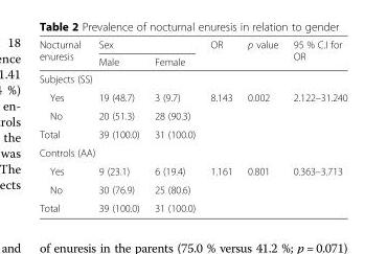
<table><thead><tr><td rowspan="2">Nocturnal enuresis</td><td colspan="2">Sex</td><td rowspan="2">OR</td><td rowspan="2">p value</td><td rowspan="2">95 % C.I for OR</td></tr><tr><td>Male</td><td>Female</td></tr></thead><tbody><tr><td colspan="6">Subjects (SS)</td></tr><tr><td>Yes</td><td>19 (48.7)</td><td>3 (9.7)</td><td>8.143</td><td>0.002</td><td>2.122–31.240</td></tr><tr><td>No</td><td>20 (51.3)</td><td>28 (90.3)</td><td></td><td></td><td></td></tr><tr><td>Total</td><td>39 (100.0)</td><td>31 (100.0)</td><td></td><td></td><td></td></tr><tr><td colspan="6">Controls (AA)</td></tr><tr><td>Yes</td><td>9 (23.1)</td><td>6 (19.4)</td><td>1.161</td><td>0.801</td><td>0.363–3.713</td></tr><tr><td>No</td><td>30 (76.9)</td><td>25 (80.6)</td><td></td><td></td><td></td></tr><tr><td>Total</td><td>39 (100.0)</td><td>31 (100.0)</td><td></td><td></td><td></td></tr></tbody></table>